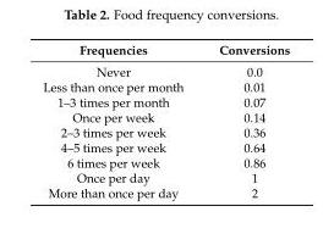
<table><thead><tr><td>Frequencies</td><td>Conversions</td></tr></thead><tbody><tr><td>Never</td><td>0.0</td></tr><tr><td>Less than once per month</td><td>0.01</td></tr><tr><td>1–3 times per month</td><td>0.07</td></tr><tr><td>Once per week</td><td>0.14</td></tr><tr><td>2–3 times per week</td><td>0.36</td></tr><tr><td>4–5 times per week</td><td>0.64</td></tr><tr><td>6 times per week</td><td>0.86</td></tr><tr><td>Once per day</td><td>1</td></tr><tr><td>More than once per day</td><td>2</td></tr></tbody></table>